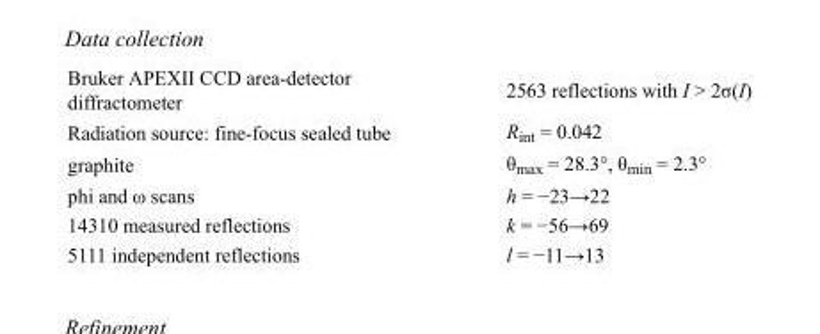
<table><tbody><tr><td>Bruker APEXII CCD area-detector diffractometer</td><td>2563 reflections with I &gt; 2σ(I)</td></tr><tr><td>Radiation source: fine-focus sealed tube</td><td>R<sub>int</sub> = 0.042</td></tr><tr><td>graphite</td><td>θ<sub>max</sub> = 28.3°, θ<sub>min</sub> = 2.3°</td></tr><tr><td>phi and ω scans</td><td>h = −23→22</td></tr><tr><td>14310 measured reflections</td><td>k = −56→69</td></tr><tr><td>5111 independent reflections</td><td>l = −11→13</td></tr></tbody></table>